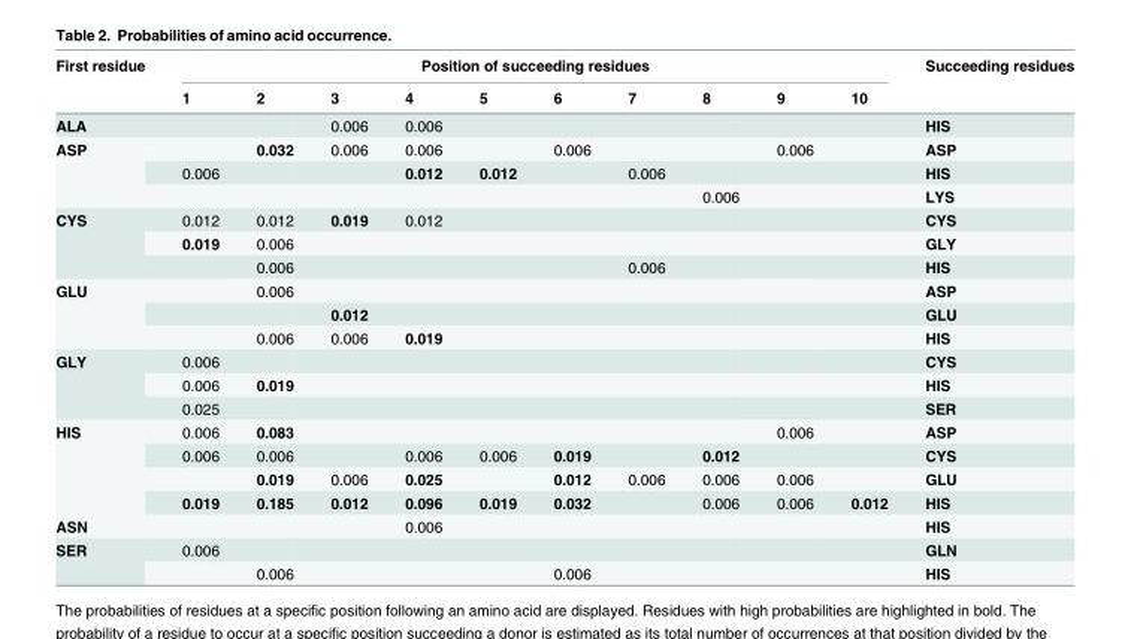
<table><thead><tr><td rowspan="2">First residue</td><td colspan="10">Position of succeeding residues</td><td rowspan="2">Succeeding residues</td></tr><tr><td>1</td><td>2</td><td>3</td><td>4</td><td>5</td><td>6</td><td>7</td><td>8</td><td>9</td><td>10</td></tr></thead><tbody><tr><td>ALA</td><td></td><td></td><td>0.006</td><td>0.006</td><td></td><td></td><td></td><td></td><td></td><td></td><td>HIS</td></tr><tr><td rowspan="3">ASP</td><td></td><td>0.032</td><td>0.006</td><td>0.006</td><td></td><td>0.006</td><td></td><td></td><td>0.006</td><td></td><td>ASP</td></tr><tr><td>0.006</td><td></td><td></td><td>0.012</td><td>0.012</td><td></td><td>0.006</td><td></td><td></td><td></td><td>HIS</td></tr><tr><td></td><td></td><td></td><td></td><td></td><td></td><td></td><td>0.006</td><td></td><td></td><td>LYS</td></tr><tr><td rowspan="3">CYS</td><td>0.012</td><td>0.012</td><td>0.019</td><td>0.012</td><td></td><td></td><td></td><td></td><td></td><td></td><td>CYS</td></tr><tr><td>0.019</td><td>0.006</td><td></td><td></td><td></td><td></td><td></td><td></td><td></td><td></td><td>GLY</td></tr><tr><td></td><td>0.006</td><td></td><td></td><td></td><td></td><td>0.006</td><td></td><td></td><td></td><td>HIS</td></tr><tr><td rowspan="3">GLU</td><td></td><td>0.006</td><td></td><td></td><td></td><td></td><td></td><td></td><td></td><td></td><td>ASP</td></tr><tr><td></td><td></td><td>0.012</td><td></td><td></td><td></td><td></td><td></td><td></td><td></td><td>GLU</td></tr><tr><td></td><td>0.006</td><td>0.006</td><td>0.019</td><td></td><td></td><td></td><td></td><td></td><td></td><td>HIS</td></tr><tr><td rowspan="3">GLY</td><td>0.006</td><td></td><td></td><td></td><td></td><td></td><td></td><td></td><td></td><td></td><td>CYS</td></tr><tr><td>0.006</td><td>0.019</td><td></td><td></td><td></td><td></td><td></td><td></td><td></td><td></td><td>HIS</td></tr><tr><td>0.025</td><td></td><td></td><td></td><td></td><td></td><td></td><td></td><td></td><td></td><td>SER</td></tr><tr><td rowspan="4">HIS</td><td>0.006</td><td>0.083</td><td></td><td></td><td></td><td></td><td></td><td></td><td>0.006</td><td></td><td>ASP</td></tr><tr><td>0.006</td><td>0.006</td><td></td><td>0.006</td><td>0.006</td><td>0.019</td><td></td><td>0.012</td><td></td><td></td><td>CYS</td></tr><tr><td></td><td>0.019</td><td>0.006</td><td>0.025</td><td></td><td>0.012</td><td>0.006</td><td>0.006</td><td>0.006</td><td></td><td>GLU</td></tr><tr><td>0.019</td><td>0.185</td><td>0.012</td><td>0.096</td><td>0.019</td><td>0.032</td><td></td><td>0.006</td><td>0.006</td><td>0.012</td><td>HIS</td></tr><tr><td>ASN</td><td></td><td></td><td></td><td>0.006</td><td></td><td></td><td></td><td></td><td></td><td></td><td>HIS</td></tr><tr><td rowspan="2">SER</td><td>0.006</td><td></td><td></td><td></td><td></td><td></td><td></td><td></td><td></td><td></td><td>GLN</td></tr><tr><td></td><td>0.006</td><td></td><td></td><td></td><td>0.006</td><td></td><td></td><td></td><td></td><td>HIS</td></tr></tbody></table>